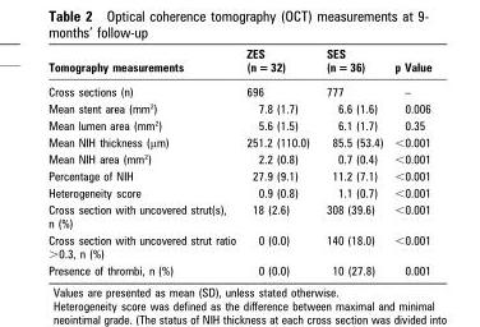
<table><thead><tr><td>Tomography measurements</td><td>ZES (n = 32)</td><td>SES (n = 36)</td><td>p Value</td></tr></thead><tbody><tr><td>Cross sections (n)</td><td>696</td><td>777</td><td>–</td></tr><tr><td>Mean stent area (mm<sup>2</sup>)</td><td>7.8 (1.7)</td><td>6.6 (1.6)</td><td>0.006</td></tr><tr><td>Mean lumen area (mm<sup>2</sup>)</td><td>5.6 (1.5)</td><td>6.1 (1.7)</td><td>0.35</td></tr><tr><td>Mean NIH thickness (μm)</td><td>251.2 (110.0)</td><td>85.5 (53.4)</td><td>&lt;0.001</td></tr><tr><td>Mean NIH area (mm<sup>2</sup>)</td><td>2.2 (0.8)</td><td>0.7 (0.4)</td><td>&lt;0.001</td></tr><tr><td>Percentage of NIH</td><td>27.9 (9.1)</td><td>11.2 (7.1)</td><td>&lt;0.001</td></tr><tr><td>Heterogeneity score</td><td>0.9 (0.8)</td><td>1.1 (0.7)</td><td>&lt;0.001</td></tr><tr><td>Cross section with uncovered strut(s), n (%)</td><td>18 (2.6)</td><td>308 (39.6)</td><td>&lt;0.001</td></tr><tr><td>Cross section with uncovered strut ratio &gt;0.3, n (%)</td><td>0 (0.0)</td><td>140 (18.0)</td><td>&lt;0.001</td></tr><tr><td>Presence of thrombi, n (%)</td><td>0 (0.0)</td><td>10 (27.8)</td><td>0.001</td></tr></tbody></table>